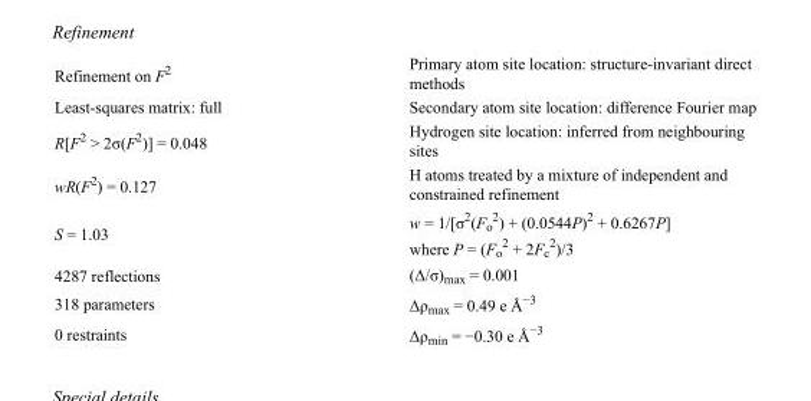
<table><tbody><tr><td>Refinement on F<sup>2</sup></td><td>Primary atom site location: structure-invariant direct methods</td></tr><tr><td>Least-squares matrix: full</td><td>Secondary atom site location: difference Fourier map</td></tr><tr><td>R[F<sup>2</sup> &gt; 2σ(F<sup>2</sup>)] = 0.048</td><td>Hydrogen site location: inferred from neighbouring sites</td></tr><tr><td>wR(F<sup>2</sup>) = 0.127</td><td>H atoms treated by a mixture of independent and constrained refinement</td></tr><tr><td>S = 1.03</td><td>w = 1/[σ<sup>2</sup>(F<sub>o</sub> <sup>2</sup>) + (0.0544P)<sup>2</sup> + 0.6267P] where P = (F<sub>o</sub> <sup>2</sup> + 2F<sub>c</sub> <sup>2</sup>)/3</td></tr><tr><td>4287 reflections</td><td>(Δ/σ)<sub>max</sub> = 0.001</td></tr><tr><td>318 parameters</td><td>Δρ<sub>max</sub> = 0.49 e Å<sup>−3</sup></td></tr><tr><td>0 restraints</td><td>Δρ<sub>min</sub> = −0.30 e Å<sup>−3</sup></td></tr></tbody></table>